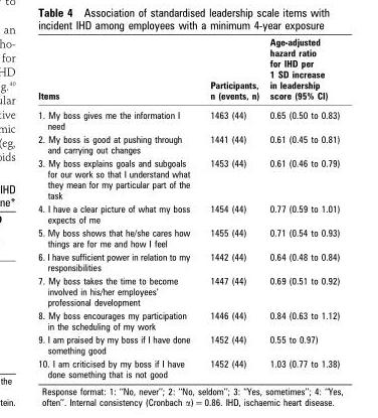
<table><thead><tr><td>Items</td><td>Participants, n (events, n)</td><td>Age-adjusted hazard ratio for IHD per 1 SD increase in leadership score (95% CI)</td></tr></thead><tbody><tr><td>1. My boss gives me the information I need</td><td>1463 (44)</td><td>0.65 (0.50 to 0.83)</td></tr><tr><td>2. My boss is good at pushing through and carrying out changes</td><td>1441 (44)</td><td>0.61 (0.45 to 0.81)</td></tr><tr><td>3. My boss explains goals and subgoals for our work so that I understand what they mean for my particular part of the task</td><td>1453 (44)</td><td>0.61 (0.46 to 0.79)</td></tr><tr><td>4. I have a clear picture of what my boss expects of me</td><td>1454 (44)</td><td>0.77 (0.59 to 1.01)</td></tr><tr><td>5. My boss shows that he/she cares how things are for me and how I feel</td><td>1455 (44)</td><td>0.71 (0.54 to 0.93)</td></tr><tr><td>6. I have sufficient power in relation to my responsibilities</td><td>1442 (44)</td><td>0.64 (0.48 to 0.84)</td></tr><tr><td>7. My boss takes the time to become involved in his/her employees’ professional development</td><td>1447 (44)</td><td>0.69 (0.51 to 0.92)</td></tr><tr><td>8. My boss encourages my participation in the scheduling of my work</td><td>1446 (44)</td><td>0.84 (0.63 to 1.12)</td></tr><tr><td>9. I am praised by my boss if I have done something good</td><td>1452 (44)</td><td>0.55 to 0.97)</td></tr><tr><td>10. I am criticised by my boss if I have done something that is not good</td><td>1452 (44)</td><td>1.03 (0.77 to 1.38)</td></tr></tbody></table>